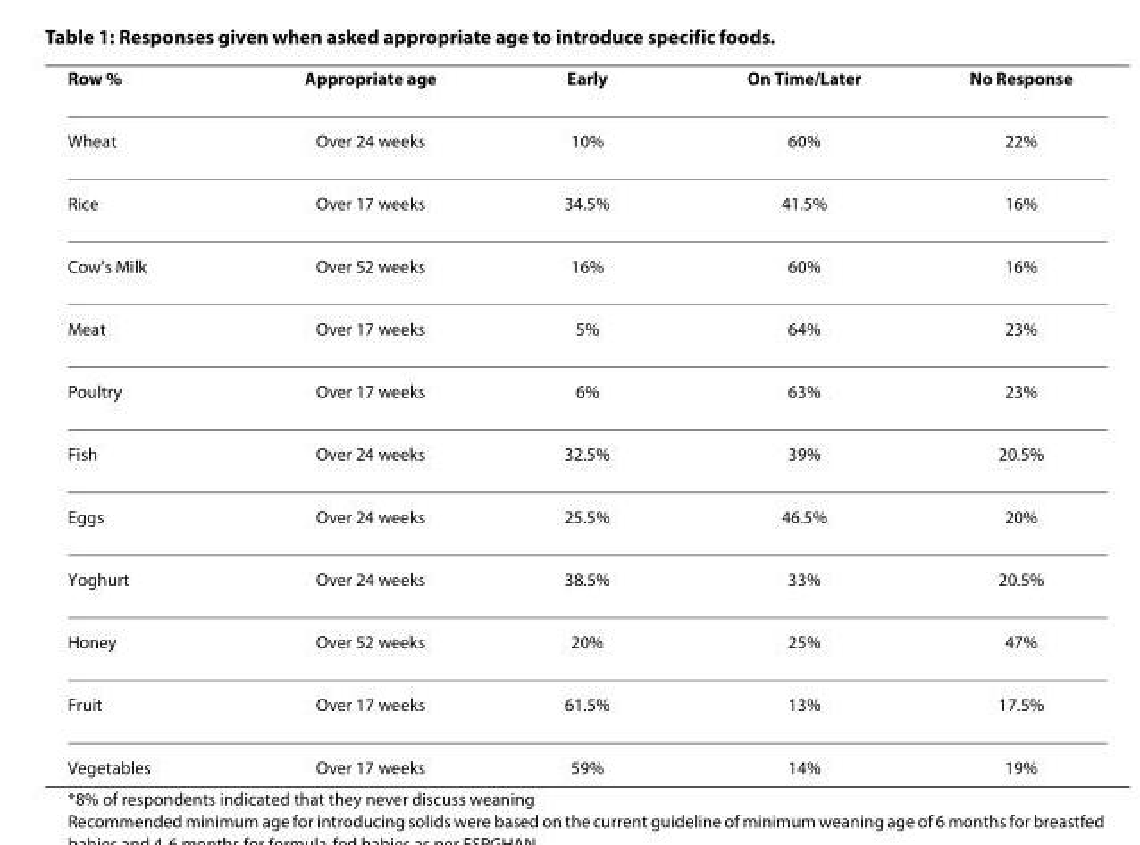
<table><thead><tr><td>Row %</td><td>Appropriate age</td><td>Early</td><td>On Time/Later</td><td>No Response</td></tr></thead><tbody><tr><td>Wheat</td><td>Over 24 weeks</td><td>10%</td><td>60%</td><td>22%</td></tr><tr><td>Rice</td><td>Over 17 weeks</td><td>34.5%</td><td>41.5%</td><td>16%</td></tr><tr><td>Cow&#x27;s Milk</td><td>Over 52 weeks</td><td>16%</td><td>60%</td><td>16%</td></tr><tr><td>Meat</td><td>Over 17 weeks</td><td>5%</td><td>64%</td><td>23%</td></tr><tr><td>Poultry</td><td>Over 17 weeks</td><td>6%</td><td>63%</td><td>23%</td></tr><tr><td>Fish</td><td>Over 24 weeks</td><td>32.5%</td><td>39%</td><td>20.5%</td></tr><tr><td>Eggs</td><td>Over 24 weeks</td><td>25.5%</td><td>46.5%</td><td>20%</td></tr><tr><td>Yoghurt</td><td>Over 24 weeks</td><td>38.5%</td><td>33%</td><td>20.5%</td></tr><tr><td>Honey</td><td>Over 52 weeks</td><td>20%</td><td>25%</td><td>47%</td></tr><tr><td>Fruit</td><td>Over 17 weeks</td><td>61.5%</td><td>13%</td><td>17.5%</td></tr><tr><td>Vegetables</td><td>Over 17 weeks</td><td>59%</td><td>14%</td><td>19%</td></tr></tbody></table>